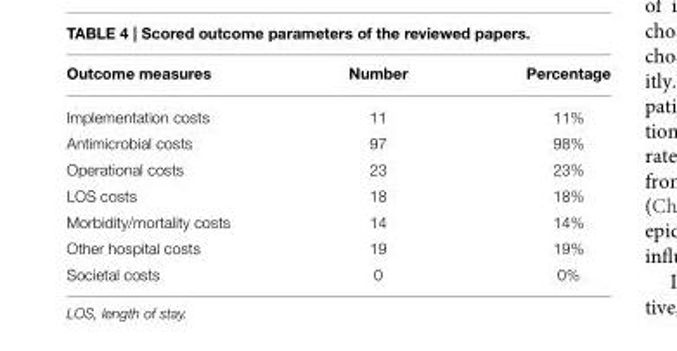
<table><thead><tr><td>Outcome measures</td><td>Number</td><td>Percentage</td></tr></thead><tbody><tr><td>Implementation costs</td><td>11</td><td>11%</td></tr><tr><td>Antimicrobial costs</td><td>97</td><td>98%</td></tr><tr><td>Operational costs</td><td>23</td><td>23%</td></tr><tr><td>LOS costs</td><td>18</td><td>18%</td></tr><tr><td>Morbidity/mortality costs</td><td>14</td><td>14%</td></tr><tr><td>Other hospital costs</td><td>19</td><td>19%</td></tr><tr><td>Societal costs</td><td>0</td><td>0%</td></tr></tbody></table>